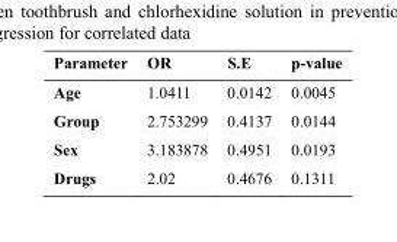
<table><thead><tr><td>Parameter</td><td>OR</td><td>S.E</td><td>p-value</td></tr></thead><tbody><tr><td>Age</td><td>1.0411</td><td>0.0142</td><td>0.0045</td></tr><tr><td>Group</td><td>2.753299</td><td>0.4137</td><td>0.0144</td></tr><tr><td>Sex</td><td>3.183878</td><td>0.4951</td><td>0.0193</td></tr><tr><td>Drugs</td><td>2.02</td><td>0.4676</td><td>0.1311</td></tr></tbody></table>